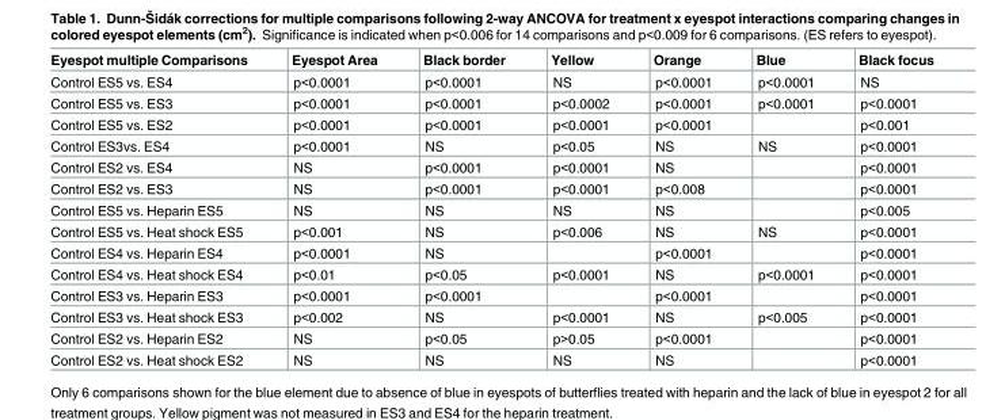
<table><thead><tr><td>Eyespot multiple Comparisons</td><td>Eyespot Area</td><td>Black border</td><td>Yellow</td><td>Orange</td><td>Blue</td><td>Black focus</td></tr></thead><tbody><tr><td>Control ES5 vs. ES4</td><td>p&lt;0.0001</td><td>p&lt;0.0001</td><td>NS</td><td>p&lt;0.0001</td><td>p&lt;0.0001</td><td>NS</td></tr><tr><td>Control ES5 vs. ES3</td><td>p&lt;0.0001</td><td>p&lt;0.0001</td><td>p&lt;0.0002</td><td>p&lt;0.0001</td><td>p&lt;0.0001</td><td>p&lt;0.0001</td></tr><tr><td>Control ES5 vs. ES2</td><td>p&lt;0.0001</td><td>p&lt;0.0001</td><td>p&lt;0.0001</td><td>p&lt;0.0001</td><td></td><td>p&lt;0.001</td></tr><tr><td>Control ES3vs. ES4</td><td>p&lt;0.0001</td><td>NS</td><td>p&lt;0.05</td><td>NS</td><td>NS</td><td>p&lt;0.0001</td></tr><tr><td>Control ES2 vs. ES4</td><td>NS</td><td>p&lt;0.0001</td><td>p&lt;0.0001</td><td>NS</td><td></td><td>p&lt;0.0001</td></tr><tr><td>Control ES2 vs. ES3</td><td>NS</td><td>p&lt;0.0001</td><td>p&lt;0.0001</td><td>p&lt;0.008</td><td></td><td>p&lt;0.0001</td></tr><tr><td>Control ES5 vs. Heparin ES5</td><td>NS</td><td>NS</td><td>NS</td><td>NS</td><td></td><td>p&lt;0.005</td></tr><tr><td>Control ES5 vs. Heat shock ES5</td><td>p&lt;0.001</td><td>NS</td><td>p&lt;0.006</td><td>NS</td><td>NS</td><td>p&lt;0.0001</td></tr><tr><td>Control ES4 vs. Heparin ES4</td><td>p&lt;0.0001</td><td>NS</td><td></td><td>p&lt;0.0001</td><td></td><td>p&lt;0.0001</td></tr><tr><td>Control ES4 vs. Heat shock ES4</td><td>p&lt;0.01</td><td>p&lt;0.05</td><td>p&lt;0.0001</td><td>NS</td><td>p&lt;0.0001</td><td>p&lt;0.0001</td></tr><tr><td>Control ES3 vs. Heparin ES3</td><td>p&lt;0.0001</td><td>p&lt;0.0001</td><td></td><td>p&lt;0.0001</td><td></td><td>p&lt;0.0001</td></tr><tr><td>Control ES3 vs. Heat shock ES3</td><td>p&lt;0.002</td><td>NS</td><td>p&lt;0.0001</td><td>NS</td><td>p&lt;0.005</td><td>p&lt;0.0001</td></tr><tr><td>Control ES2 vs. Heparin ES2</td><td>NS</td><td>p&lt;0.05</td><td>p&gt;0.05</td><td>p&lt;0.0001</td><td></td><td>p&lt;0.0001</td></tr><tr><td>Control ES2 vs. Heat shock ES2</td><td>NS</td><td>NS</td><td>NS</td><td>NS</td><td></td><td>p&lt;0.0001</td></tr></tbody></table>